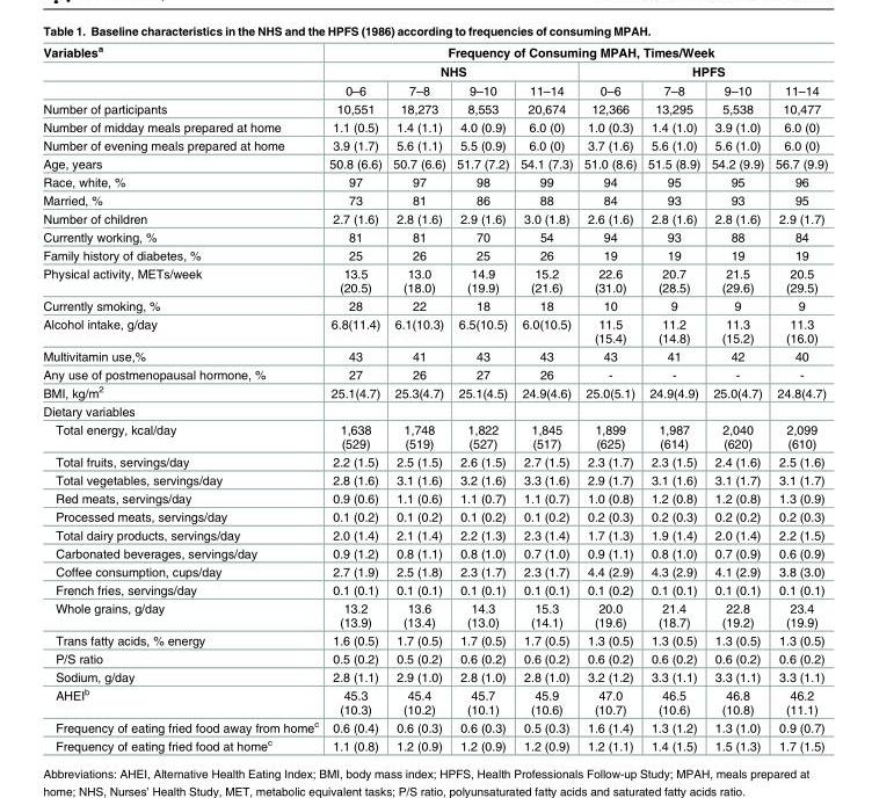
<table><thead><tr><td rowspan="3">Variables<sup>a</sup></td><td colspan="8">Frequency of Consuming MPAH, Times/Week</td></tr><tr><td colspan="4">NHS</td><td colspan="4">HPFS</td></tr><tr><td>0–6</td><td>7–8</td><td>9–10</td><td>11–14</td><td>0–6</td><td>7–8</td><td>9–10</td><td>11–14</td></tr></thead><tbody><tr><td>Number of participants</td><td>10,551</td><td>18,273</td><td>8,553</td><td>20,674</td><td>12,366</td><td>13,295</td><td>5,538</td><td>10,477</td></tr><tr><td>Number of midday meals prepared at home</td><td>1.1 (0.5)</td><td>1.4 (1.1)</td><td>4.0 (0.9)</td><td>6.0 (0)</td><td>1.0 (0.3)</td><td>1.4 (1.0)</td><td>3.9 (1.0)</td><td>6.0 (0)</td></tr><tr><td>Number of evening meals prepared at home</td><td>3.9 (1.7)</td><td>5.6 (1.1)</td><td>5.5 (0.9)</td><td>6.0 (0)</td><td>3.7 (1.6)</td><td>5.6 (1.0)</td><td>5.6 (1.0)</td><td>6.0 (0)</td></tr><tr><td>Age, years</td><td>50.8 (6.6)</td><td>50.7 (6.6)</td><td>51.7 (7.2)</td><td>54.1 (7.3)</td><td>51.0 (8.6)</td><td>51.5 (8.9)</td><td>54.2 (9.9)</td><td>56.7 (9.9)</td></tr><tr><td>Race, white, %</td><td>97</td><td>97</td><td>98</td><td>99</td><td>94</td><td>95</td><td>95</td><td>96</td></tr><tr><td>Married, %</td><td>73</td><td>81</td><td>86</td><td>88</td><td>84</td><td>93</td><td>93</td><td>95</td></tr><tr><td>Number of children</td><td>2.7 (1.6)</td><td>2.8 (1.6)</td><td>2.9 (1.6)</td><td>3.0 (1.8)</td><td>2.6 (1.6)</td><td>2.8 (1.6)</td><td>2.8 (1.6)</td><td>2.9 (1.7)</td></tr><tr><td>Currently working, %</td><td>81</td><td>81</td><td>70</td><td>54</td><td>94</td><td>93</td><td>88</td><td>84</td></tr><tr><td>Family history of diabetes, %</td><td>25</td><td>26</td><td>25</td><td>26</td><td>19</td><td>19</td><td>19</td><td>19</td></tr><tr><td>Physical activity, METs/week</td><td>13.5 (20.5)</td><td>13.0 (18.0)</td><td>14.9 (19.9)</td><td>15.2 (21.6)</td><td>22.6 (31.0)</td><td>20.7 (28.5)</td><td>21.5 (29.6)</td><td>20.5 (29.5)</td></tr><tr><td>Currently smoking, %</td><td>28</td><td>22</td><td>18</td><td>18</td><td>10</td><td>9</td><td>9</td><td>9</td></tr><tr><td>Alcohol intake, g/day</td><td>6.8(11.4)</td><td>6.1(10.3)</td><td>6.5(10.5)</td><td>6.0(10.5)</td><td>11.5 (15.4)</td><td>11.2 (14.8)</td><td>11.3 (15.2)</td><td>11.3 (16.0)</td></tr><tr><td>Multivitamin use,%</td><td>43</td><td>41</td><td>43</td><td>43</td><td>43</td><td>41</td><td>42</td><td>40</td></tr><tr><td>Any use of postmenopausal hormone, %</td><td>27</td><td>26</td><td>27</td><td>26</td><td>-</td><td>-</td><td>-</td><td>-</td></tr><tr><td>BMI, kg/m<sup>2</sup></td><td>25.1(4.7)</td><td>25.3(4.7)</td><td>25.1(4.5)</td><td>24.9(4.6)</td><td>25.0(5.1)</td><td>24.9(4.9)</td><td>25.0(4.7)</td><td>24.8(4.7)</td></tr><tr><td colspan="9">Dietary variables</td></tr><tr><td>Total energy, kcal/day</td><td>1,638 (529)</td><td>1,748 (519)</td><td>1,822 (527)</td><td>1,845 (517)</td><td>1,899 (625)</td><td>1,987 (614)</td><td>2,040 (620)</td><td>2,099 (610)</td></tr><tr><td>Total fruits, servings/day</td><td>2.2 (1.5)</td><td>2.5 (1.5)</td><td>2.6 (1.5)</td><td>2.7 (1.5)</td><td>2.3 (1.7)</td><td>2.3 (1.5)</td><td>2.4 (1.6)</td><td>2.5 (1.6)</td></tr><tr><td>Total vegetables, servings/day</td><td>2.8 (1.6)</td><td>3.1 (1.6)</td><td>3.2 (1.6)</td><td>3.3 (1.6)</td><td>2.9 (1.7)</td><td>3.1 (1.6)</td><td>3.1 (1.7)</td><td>3.1 (1.7)</td></tr><tr><td>Red meats, servings/day</td><td>0.9 (0.6)</td><td>1.1 (0.6)</td><td>1.1 (0.7)</td><td>1.1 (0.7)</td><td>1.0 (0.8)</td><td>1.2 (0.8)</td><td>1.2 (0.8)</td><td>1.3 (0.9)</td></tr><tr><td>Processed meats, servings/day</td><td>0.1 (0.2)</td><td>0.1 (0.2)</td><td>0.1 (0.2)</td><td>0.1 (0.2)</td><td>0.2 (0.3)</td><td>0.2 (0.3)</td><td>0.2 (0.2)</td><td>0.2 (0.3)</td></tr><tr><td>Total dairy products, servings/day</td><td>2.0 (1.4)</td><td>2.1 (1.4)</td><td>2.2 (1.3)</td><td>2.3 (1.4)</td><td>1.7 (1.3)</td><td>1.9 (1.4)</td><td>2.0 (1.4)</td><td>2.2 (1.5)</td></tr><tr><td>Carbonated beverages, servings/day</td><td>0.9 (1.2)</td><td>0.8 (1.1)</td><td>0.8 (1.0)</td><td>0.7 (1.0)</td><td>0.9 (1.1)</td><td>0.8 (1.0)</td><td>0.7 (0.9)</td><td>0.6 (0.9)</td></tr><tr><td>Coffee consumption, cups/day</td><td>2.7 (1.9)</td><td>2.5 (1.8)</td><td>2.3 (1.7)</td><td>2.3 (1.7)</td><td>4.4 (2.9)</td><td>4.3 (2.9)</td><td>4.1 (2.9)</td><td>3.8 (3.0)</td></tr><tr><td>French fries, servings/day</td><td>0.1 (0.1)</td><td>0.1 (0.1)</td><td>0.1 (0.1)</td><td>0.1 (0.1)</td><td>0.1 (0.2)</td><td>0.1 (0.1)</td><td>0.1 (0.1)</td><td>0.1 (0.1)</td></tr><tr><td>Whole grains, g/day</td><td>13.2 (13.9)</td><td>13.6 (13.4)</td><td>14.3 (13.0)</td><td>15.3 (14.1)</td><td>20.0 (19.6)</td><td>21.4 (18.7)</td><td>22.8 (19.2)</td><td>23.4 (19.9)</td></tr><tr><td>Trans fatty acids, % energy</td><td>1.6 (0.5)</td><td>1.7 (0.5)</td><td>1.7 (0.5)</td><td>1.7 (0.5)</td><td>1.3 (0.5)</td><td>1.3 (0.5)</td><td>1.3 (0.5)</td><td>1.3 (0.5)</td></tr><tr><td>P/S ratio</td><td>0.5 (0.2)</td><td>0.5 (0.2)</td><td>0.6 (0.2)</td><td>0.6 (0.2)</td><td>0.6 (0.2)</td><td>0.6 (0.2)</td><td>0.6 (0.2)</td><td>0.6 (0.2)</td></tr><tr><td>Sodium, g/day</td><td>2.8 (1.1)</td><td>2.9 (1.0)</td><td>2.8 (1.0)</td><td>2.8 (1.0)</td><td>3.2 (1.2)</td><td>3.3 (1.1)</td><td>3.3 (1.1)</td><td>3.3 (1.1)</td></tr><tr><td>AHEI<sup>b</sup></td><td>45.3 (10.3)</td><td>45.4 (10.2)</td><td>45.7 (10.1)</td><td>45.9 (10.6)</td><td>47.0 (10.7)</td><td>46.5 (10.6)</td><td>46.8 (10.8)</td><td>46.2 (11.1)</td></tr><tr><td>Frequency of eating fried food away from home<sup>c</sup></td><td>0.6 (0.4)</td><td>0.6 (0.3)</td><td>0.6 (0.3)</td><td>0.5 (0.3)</td><td>1.6 (1.4)</td><td>1.3 (1.2)</td><td>1.3 (1.0)</td><td>0.9 (0.7)</td></tr><tr><td>Frequency of eating fried food at home<sup>c</sup></td><td>1.1 (0.8)</td><td>1.2 (0.9)</td><td>1.2 (0.9)</td><td>1.2 (0.9)</td><td>1.2 (1.1)</td><td>1.4 (1.5)</td><td>1.5 (1.3)</td><td>1.7 (1.5)</td></tr></tbody></table>